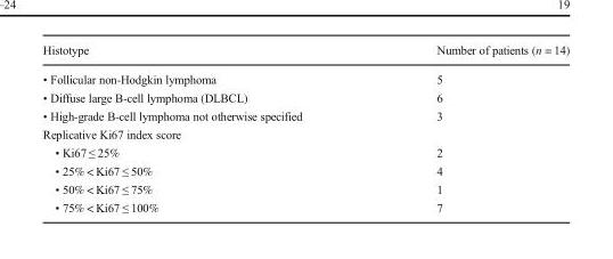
<table><thead><tr><td>Histotype</td><td>Number of patients (n = 14)</td></tr></thead><tbody><tr><td>• Follicular non-Hodgkin lymphoma</td><td>5</td></tr><tr><td>• Diffuse large B-cell lymphoma (DLBCL)</td><td>6</td></tr><tr><td>• High-grade B-cell lymphoma not otherwise specified</td><td>3</td></tr><tr><td colspan="2">Replicative Ki67 index score</td></tr><tr><td>• Ki67 ≤ 25%</td><td>2</td></tr><tr><td>• 25% &lt; Ki67 ≤ 50%</td><td>4</td></tr><tr><td>• 50% &lt; Ki67 ≤ 75%</td><td>1</td></tr><tr><td>• 75% &lt; Ki67 ≤ 100%</td><td>7</td></tr></tbody></table>